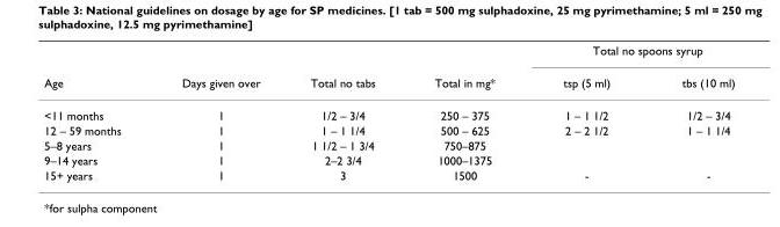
<table><thead><tr><td rowspan="2">Age</td><td rowspan="2">Days given over</td><td rowspan="2">Total no tabs</td><td rowspan="2">Total in mg*</td><td colspan="2">Total no spoons syrup</td></tr><tr><td>tsp (5 ml)</td><td>tbs (10 ml)</td></tr></thead><tbody><tr><td>&lt;11 months</td><td>1</td><td>1/2 – 3/4</td><td>250 – 375</td><td>1 – 1 1/2</td><td>1/2 – 3/4</td></tr><tr><td>12 – 59 months</td><td>1</td><td>1 – 1 1/4</td><td>500 – 625</td><td>2 – 2 1/2</td><td>1 – 1 1/4</td></tr><tr><td>5–8 years</td><td>1</td><td>1 1/2 – 1 3/4</td><td>750–875</td><td></td><td></td></tr><tr><td>9–14 years</td><td>1</td><td>2–2 3/4</td><td>1000–1375</td><td></td><td></td></tr><tr><td>15+ years</td><td>1</td><td>3</td><td>1500</td><td>-</td><td>-</td></tr></tbody></table>